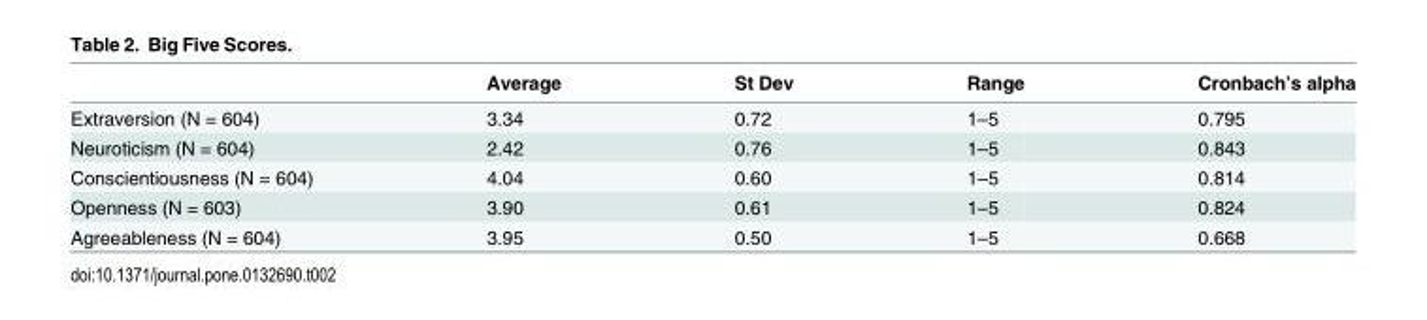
<table><thead><tr><td></td><td>Average</td><td>St Dev</td><td>Range</td><td>Cronbach’s alpha</td></tr></thead><tbody><tr><td>Extraversion (N = 604)</td><td>3.34</td><td>0.72</td><td>1–5</td><td>0.795</td></tr><tr><td>Neuroticism (N = 604)</td><td>2.42</td><td>0.76</td><td>1–5</td><td>0.843</td></tr><tr><td>Conscientiousness (N = 604)</td><td>4.04</td><td>0.60</td><td>1–5</td><td>0.814</td></tr><tr><td>Openness (N = 603)</td><td>3.90</td><td>0.61</td><td>1–5</td><td>0.824</td></tr><tr><td>Agreeableness (N = 604)</td><td>3.95</td><td>0.50</td><td>1–5</td><td>0.668</td></tr></tbody></table>